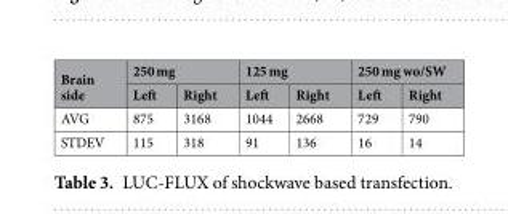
<table><thead><tr><td rowspan="2">Brain side</td><td colspan="2">250 mg</td><td colspan="2">125 mg</td><td colspan="2">250 mg wo/SW</td></tr><tr><td>Left</td><td>Right</td><td>Left</td><td>Right</td><td>Left</td><td>Right</td></tr></thead><tbody><tr><td>AVG</td><td>875</td><td>3168</td><td>1044</td><td>2668</td><td>729</td><td>790</td></tr><tr><td>STDEV</td><td>115</td><td>318</td><td>91</td><td>136</td><td>16</td><td>14</td></tr></tbody></table>